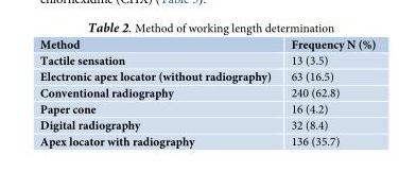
<table><thead><tr><td>Method</td><td>Frequency N (%)</td></tr></thead><tbody><tr><td>Tactile sensation</td><td>13 (3.5)</td></tr><tr><td>Electronic apex locator (without radiography)</td><td>63 (16.5)</td></tr><tr><td>Conventional radiography</td><td>240 (62.8)</td></tr><tr><td>Paper cone</td><td>16 (4.2)</td></tr><tr><td>Digital radiography</td><td>32 (8.4)</td></tr><tr><td>Apex locator with radiography</td><td>136 (35.7)</td></tr></tbody></table>